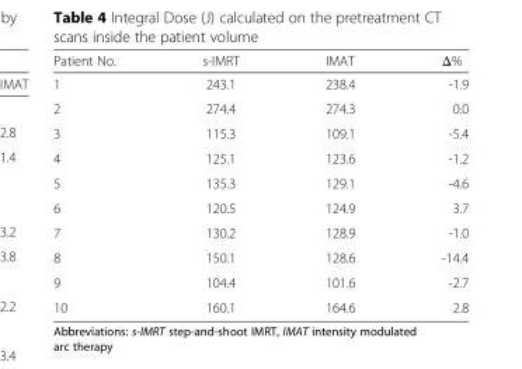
<table><thead><tr><td>Patient No.</td><td>s-IMRT</td><td>IMAT</td><td>Δ%</td></tr></thead><tbody><tr><td>1</td><td>243.1</td><td>238.4</td><td>-1.9</td></tr><tr><td>2</td><td>274.4</td><td>274.3</td><td>0.0</td></tr><tr><td>3</td><td>115.3</td><td>109.1</td><td>-5.4</td></tr><tr><td>4</td><td>125.1</td><td>123.6</td><td>-1.2</td></tr><tr><td>5</td><td>135.3</td><td>129.1</td><td>-4.6</td></tr><tr><td>6</td><td>120.5</td><td>124.9</td><td>3.7</td></tr><tr><td>7</td><td>130.2</td><td>128.9</td><td>-1.0</td></tr><tr><td>8</td><td>150.1</td><td>128.6</td><td>-14.4</td></tr><tr><td>9</td><td>104.4</td><td>101.6</td><td>-2.7</td></tr><tr><td>10</td><td>160.1</td><td>164.6</td><td>2.8</td></tr></tbody></table>